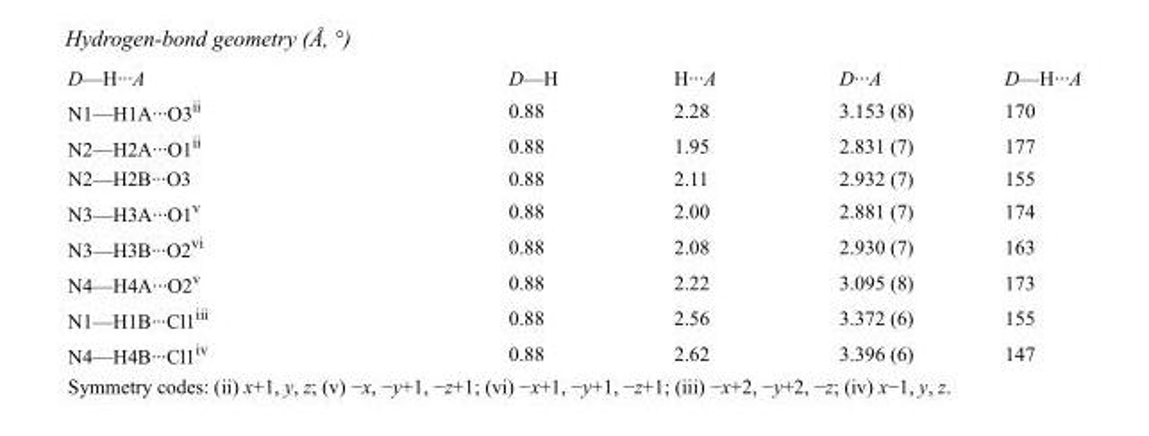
<table><tbody><tr><td>D—H···A</td><td>D—H</td><td>H···A</td><td>D···A</td><td>D—H···A</td></tr><tr><td>N1—H1A···O3<sup>ii</sup></td><td>0.88</td><td>2.28</td><td>3.153 (8)</td><td>170</td></tr><tr><td>N2—H2A···O1<sup>ii</sup></td><td>0.88</td><td>1.95</td><td>2.831 (7)</td><td>177</td></tr><tr><td>N2—H2B···O3</td><td>0.88</td><td>2.11</td><td>2.932 (7)</td><td>155</td></tr><tr><td>N3—H3A···O1<sup>v</sup></td><td>0.88</td><td>2.00</td><td>2.881 (7)</td><td>174</td></tr><tr><td>N3—H3B···O2<sup>vi</sup></td><td>0.88</td><td>2.08</td><td>2.930 (7)</td><td>163</td></tr><tr><td>N4—H4A···O2<sup>v</sup></td><td>0.88</td><td>2.22</td><td>3.095 (8)</td><td>173</td></tr><tr><td>N1—H1B···Cl1<sup>iii</sup></td><td>0.88</td><td>2.56</td><td>3.372 (6)</td><td>155</td></tr><tr><td>N4—H4B···Cl1<sup>iv</sup></td><td>0.88</td><td>2.62</td><td>3.396 (6)</td><td>147</td></tr></tbody></table>